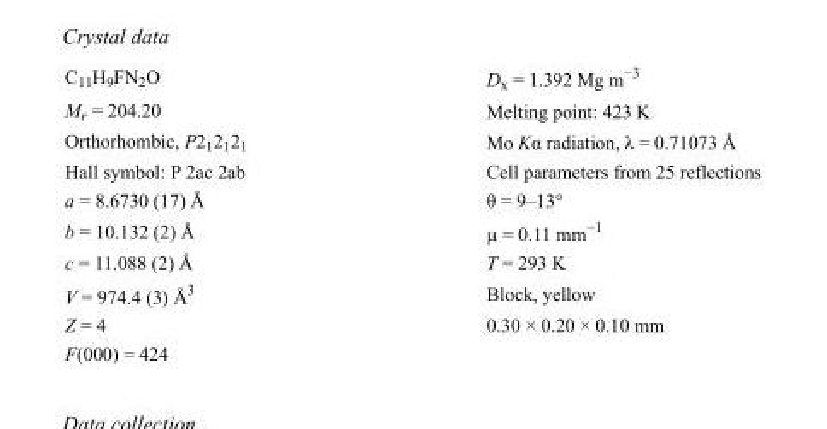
<table><tbody><tr><td>C<sub>11</sub>H<sub>9</sub>FN<sub>2</sub>O</td><td>D<sub>x</sub> = 1.392 Mg m<sup>−3</sup></td></tr><tr><td>M<sub>r</sub> = 204.20</td><td>Melting point: 423 K</td></tr><tr><td>Orthorhombic, P2<sub>1</sub>2<sub>1</sub>2<sub>1</sub></td><td>Mo Kα radiation, λ = 0.71073 Å</td></tr><tr><td>Hall symbol: P 2ac 2ab</td><td>Cell parameters from 25 reflections</td></tr><tr><td>a = 8.6730 (17) Å</td><td>θ = 9–13°</td></tr><tr><td>b = 10.132 (2) Å</td><td>µ = 0.11 mm<sup>−1</sup></td></tr><tr><td>c = 11.088 (2) Å</td><td>T = 293 K</td></tr><tr><td>V = 974.4 (3) Å<sup>3</sup></td><td>Block, yellow</td></tr><tr><td>Z = 4</td><td>0.30 × 0.20 × 0.10 mm</td></tr><tr><td>F(000) = 424</td><td></td></tr></tbody></table>